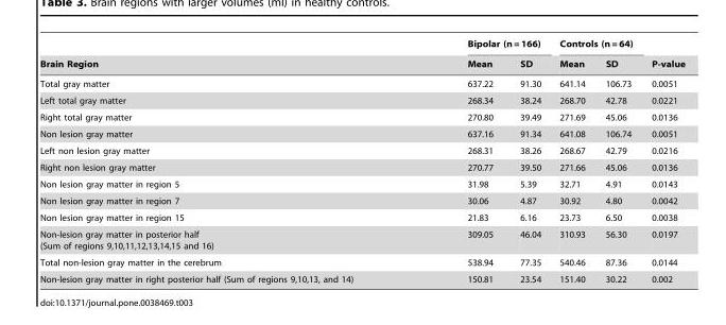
<table><thead><tr><td rowspan="2">Brain Region</td><td colspan="2">Bipolar (n = 166)</td><td colspan="2">Controls (n = 64)</td><td rowspan="2">P-value</td></tr><tr><td>Mean</td><td>SD</td><td>Mean</td><td>SD</td></tr></thead><tbody><tr><td>Total gray matter</td><td>637.22</td><td>91.30</td><td>641.14</td><td>106.73</td><td>0.0051</td></tr><tr><td>Left total gray matter</td><td>268.34</td><td>38.24</td><td>268.70</td><td>42.78</td><td>0.0221</td></tr><tr><td>Right total gray matter</td><td>270.80</td><td>39.49</td><td>271.69</td><td>45.06</td><td>0.0136</td></tr><tr><td>Non lesion gray matter</td><td>637.16</td><td>91.34</td><td>641.08</td><td>106.74</td><td>0.0051</td></tr><tr><td>Left non lesion gray matter</td><td>268.31</td><td>38.26</td><td>268.67</td><td>42.79</td><td>0.0216</td></tr><tr><td>Right non lesion gray matter</td><td>270.77</td><td>39.50</td><td>271.66</td><td>45.06</td><td>0.0136</td></tr><tr><td>Non lesion gray matter in region 5</td><td>31.98</td><td>5.39</td><td>32.71</td><td>4.91</td><td>0.0143</td></tr><tr><td>Non lesion gray matter in region 7</td><td>30.06</td><td>4.87</td><td>30.92</td><td>4.80</td><td>0.0042</td></tr><tr><td>Non lesion gray matter in region 15</td><td>21.83</td><td>6.16</td><td>23.73</td><td>6.50</td><td>0.0038</td></tr><tr><td>Non-lesion gray matter in posterior half (Sum of regions 9,10,11,12,13,14,15 and 16)</td><td>309.05</td><td>46.04</td><td>310.93</td><td>56.30</td><td>0.0197</td></tr><tr><td>Total non-lesion gray matter in the cerebrum</td><td>538.94</td><td>77.35</td><td>540.46</td><td>87.36</td><td>0.0144</td></tr><tr><td>Non-lesion gray matter in right posterior half (Sum of regions 9,10,13, and 14)</td><td>150.81</td><td>23.54</td><td>151.40</td><td>30.22</td><td>0.002</td></tr></tbody></table>